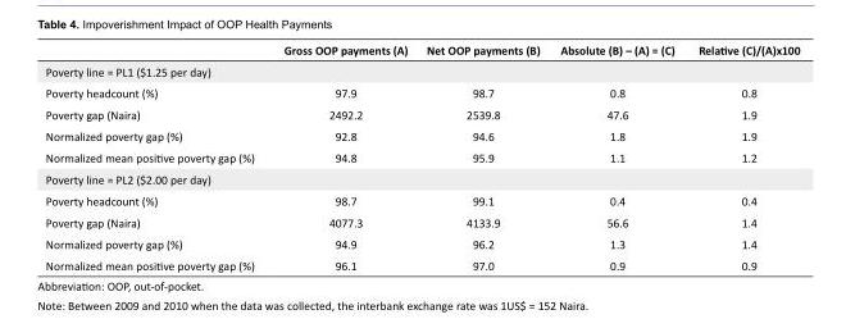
<table><thead><tr><td></td><td>Gross OOP payments (A)</td><td>Net OOP payments (B)</td><td>Absolute (B) – (A) = (C)</td><td>Relative (C)/(A)x100</td></tr></thead><tbody><tr><td colspan="5">Poverty line = PL1 ($1.25 per day)</td></tr><tr><td>Poverty headcount (%)</td><td>97.9</td><td>98.7</td><td>0.8</td><td>0.8</td></tr><tr><td>Poverty gap (Naira)</td><td>2492.2</td><td>2539.8</td><td>47.6</td><td>1.9</td></tr><tr><td>Normalized poverty gap (%)</td><td>92.8</td><td>94.6</td><td>1.8</td><td>1.9</td></tr><tr><td>Normalized mean positive poverty gap (%)</td><td>94.8</td><td>95.9</td><td>1.1</td><td>1.2</td></tr><tr><td colspan="5">Poverty line = PL2 ($2.00 per day)</td></tr><tr><td>Poverty headcount (%)</td><td>98.7</td><td>99.1</td><td>0.4</td><td>0.4</td></tr><tr><td>Poverty gap (Naira)</td><td>4077.3</td><td>4133.9</td><td>56.6</td><td>1.4</td></tr><tr><td>Normalized poverty gap (%)</td><td>94.9</td><td>96.2</td><td>1.3</td><td>1.4</td></tr><tr><td>Normalized mean positive poverty gap (%)</td><td>96.1</td><td>97.0</td><td>0.9</td><td>0.9</td></tr></tbody></table>